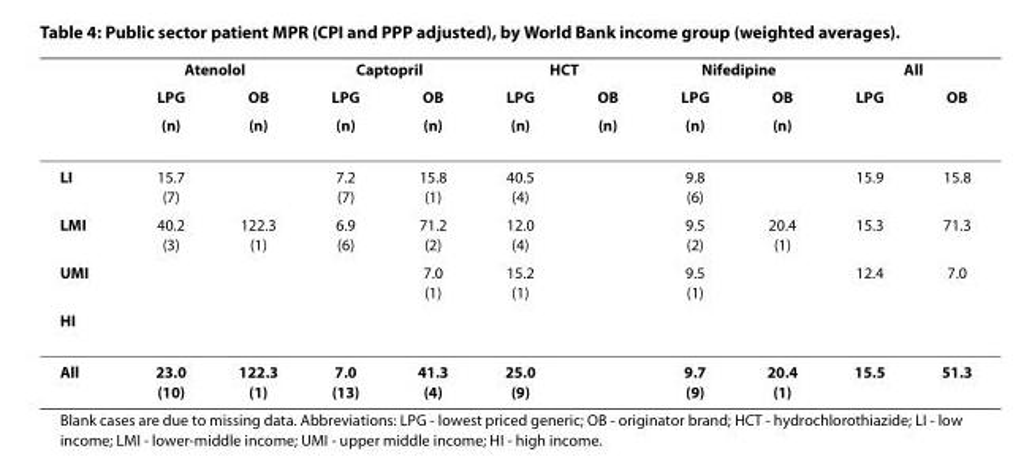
<table><thead><tr><td rowspan="3"></td><td colspan="2">Atenolol</td><td colspan="2">Captopril</td><td colspan="2">HCT</td><td colspan="2">Nifedipine</td><td colspan="2">All</td></tr><tr><td rowspan="2">LPG (n)</td><td rowspan="2">OB (n)</td><td rowspan="2">LPG (n)</td><td rowspan="2">OB (n)</td><td rowspan="2">LPG (n)</td><td rowspan="2">OB (n)</td><td rowspan="2">LPG (n)</td><td rowspan="2">OB (n)</td><td rowspan="2">LPG</td><td rowspan="2">OB</td></tr><tr></tr></thead><tbody><tr><td>LI</td><td>15.7 (7)</td><td></td><td>7.2 (7)</td><td>15.8 (1)</td><td>40.5 (4)</td><td></td><td>9.8 (6)</td><td></td><td>15.9</td><td>15.8</td></tr><tr><td>LMI</td><td>40.2 (3)</td><td>122.3 (1)</td><td>6.9 (6)</td><td>71.2 (2)</td><td>12.0 (4)</td><td></td><td>9.5 (2)</td><td>20.4 (1)</td><td>15.3</td><td>71.3</td></tr><tr><td>UMI</td><td></td><td></td><td></td><td>7.0 (1)</td><td>15.2 (1)</td><td></td><td>9.5 (1)</td><td></td><td>12.4</td><td>7.0</td></tr><tr><td colspan="11">HI</td></tr><tr><td>All</td><td>23.0 (10)</td><td>122.3 (1)</td><td>7.0 (13)</td><td>41.3 (4)</td><td>25.0 (9)</td><td></td><td>9.7 (9)</td><td>20.4 (1)</td><td>15.5</td><td>51.3</td></tr></tbody></table>